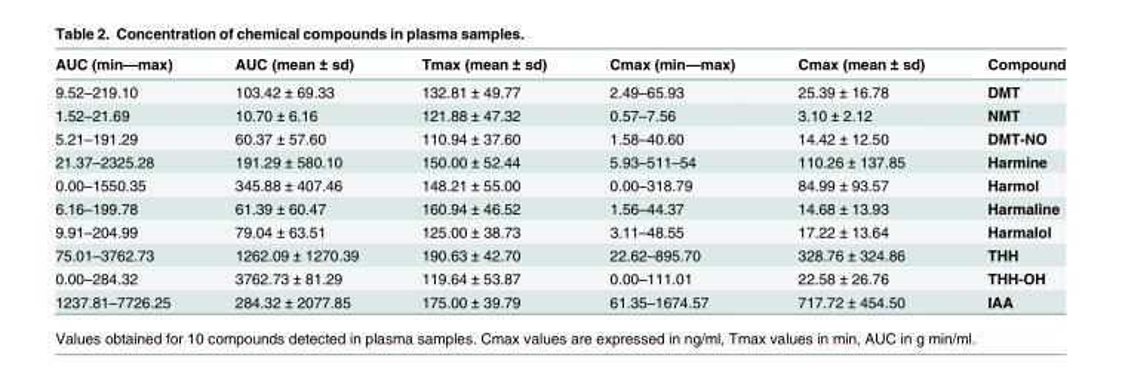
<table><thead><tr><td>AUC (min—max)</td><td>AUC (mean ± sd)</td><td>Tmax (mean ± sd)</td><td>Cmax (min—max)</td><td>Cmax (mean ± sd)</td><td>Compound</td></tr></thead><tbody><tr><td>9.52–219.10</td><td>103.42 ± 69.33</td><td>132.81 ± 49.77</td><td>2.49–65.93</td><td>25.39 ± 16.78</td><td>DMT</td></tr><tr><td>1.52–21.69</td><td>10.70 ± 6.16</td><td>121.88 ± 47.32</td><td>0.57–7.56</td><td>3.10 ± 2.12</td><td>NMT</td></tr><tr><td>5.21–191.29</td><td>60.37 ± 57.60</td><td>110.94 ± 37.60</td><td>1.58–40.60</td><td>14.42 ± 12.50</td><td>DMT-NO</td></tr><tr><td>21.37–2325.28</td><td>191.29 ± 580.10</td><td>150.00 ± 52.44</td><td>5.93–511–54</td><td>110.26 ± 137.85</td><td>Harmine</td></tr><tr><td>0.00–1550.35</td><td>345.88 ± 407.46</td><td>148.21 ± 55.00</td><td>0.00–318.79</td><td>84.99 ± 93.57</td><td>Harmol</td></tr><tr><td>6.16–199.78</td><td>61.39 ± 60.47</td><td>160.94 ± 46.52</td><td>1.56–44.37</td><td>14.68 ± 13.93</td><td>Harmaline</td></tr><tr><td>9.91–204.99</td><td>79.04 ± 63.51</td><td>125.00 ± 38.73</td><td>3.11–48.55</td><td>17.22 ± 13.64</td><td>Harmalol</td></tr><tr><td>75.01–3762.73</td><td>1262.09 ± 1270.39</td><td>190.63 ± 42.70</td><td>22.62–895.70</td><td>328.76 ± 324.86</td><td>THH</td></tr><tr><td>0.00–284.32</td><td>3762.73 ± 81.29</td><td>119.64 ± 53.87</td><td>0.00–111.01</td><td>22.58 ± 26.76</td><td>THH-OH</td></tr><tr><td>1237.81–7726.25</td><td>284.32 ± 2077.85</td><td>175.00 ± 39.79</td><td>61.35–1674.57</td><td>717.72 ± 454.50</td><td>IAA</td></tr></tbody></table>